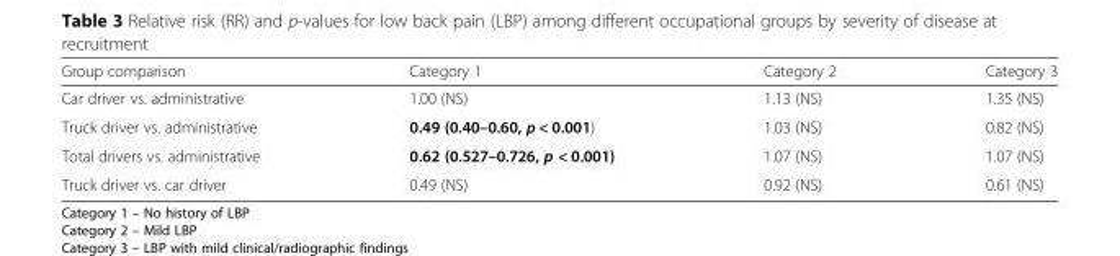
<table><thead><tr><td>Group comparison</td><td>Category 1</td><td>Category 2</td><td>Category 3</td></tr></thead><tbody><tr><td>Car driver vs. administrative</td><td>1.00 (NS)</td><td>1.13 (NS)</td><td>1.35 (NS)</td></tr><tr><td>Truck driver vs. administrative</td><td>0.49 (0.40–0.60, p &lt; 0.001)</td><td>1.03 (NS)</td><td>0.82 (NS)</td></tr><tr><td>Total drivers vs. administrative</td><td>0.62 (0.527–0.726, p &lt; 0.001)</td><td>1.07 (NS)</td><td>1.07 (NS)</td></tr><tr><td>Truck driver vs. car driver</td><td>0.49 (NS)</td><td>0.92 (NS)</td><td>0.61 (NS)</td></tr></tbody></table>